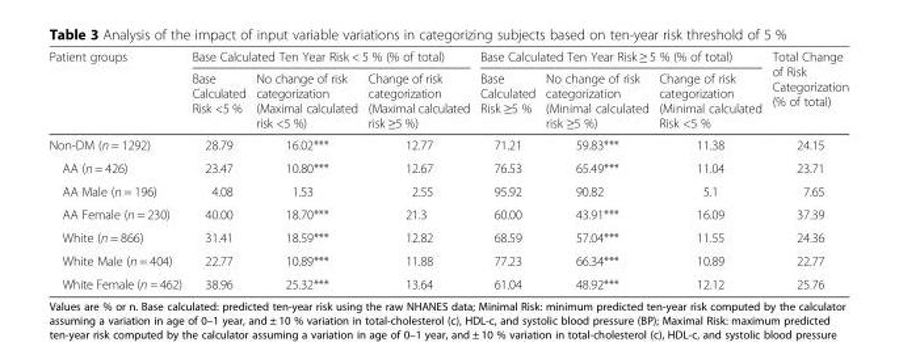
<table><thead><tr><td rowspan="2">Patient groups</td><td colspan="3">Base Calculated Ten Year Risk &lt; 5 % (% of total)</td><td colspan="3">Base Calculated Ten Year Risk ≥ 5 % (% of total)</td><td rowspan="2">Total Change of Risk Categorization (% of total)</td></tr><tr><td>Base Calculated Risk &lt;5 %</td><td>No change of risk categorization (Maximal calculated risk &lt;5 %)</td><td>Change of risk categorization (Maximal calculated risk ≥5 %)</td><td>Base Calculated Risk ≥5 %</td><td>No change of risk categorization (Minimal calculated risk ≥5 %)</td><td>Change of risk categorization (Minimal calculated Risk &lt;5 %</td></tr></thead><tbody><tr><td>Non-DM (n = 1292)</td><td>28.79</td><td>16.02***</td><td>12.77</td><td>71.21</td><td>59.83***</td><td>11.38</td><td>24.15</td></tr><tr><td>AA (n = 426)</td><td>23.47</td><td>10.80***</td><td>12.67</td><td>76.53</td><td>65.49***</td><td>11.04</td><td>23.71</td></tr><tr><td>AA Male (n = 196)</td><td>4.08</td><td>1.53</td><td>2.55</td><td>95.92</td><td>90.82</td><td>5.1</td><td>7.65</td></tr><tr><td>AA Female (n = 230)</td><td>40.00</td><td>18.70***</td><td>21.3</td><td>60.00</td><td>43.91***</td><td>16.09</td><td>37.39</td></tr><tr><td>White (n = 866)</td><td>31.41</td><td>18.59***</td><td>12.82</td><td>68.59</td><td>57.04***</td><td>11.55</td><td>24.36</td></tr><tr><td>White Male (n = 404)</td><td>22.77</td><td>10.89***</td><td>11.88</td><td>77.23</td><td>66.34***</td><td>10.89</td><td>22.77</td></tr><tr><td>White Female (n = 462)</td><td>38.96</td><td>25.32***</td><td>13.64</td><td>61.04</td><td>48.92***</td><td>12.12</td><td>25.76</td></tr></tbody></table>